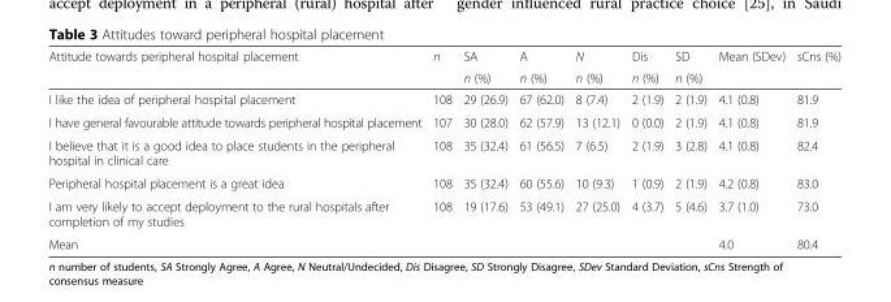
<table><thead><tr><td rowspan="2">Attitude towards peripheral hospital placement</td><td rowspan="2">n</td><td rowspan="2">SA n (%)</td><td rowspan="2">A n (%)</td><td rowspan="2">N n (%)</td><td rowspan="2">Dis n (%)</td><td rowspan="2">SD n (%)</td><td rowspan="2">Mean (SDev)</td><td rowspan="2">sCns (%)</td></tr><tr></tr></thead><tbody><tr><td>I like the idea of peripheral hospital placement</td><td>108</td><td>29 (26.9)</td><td>67 (62.0)</td><td>8 (7.4)</td><td>2 (1.9)</td><td>2 (1.9)</td><td>4.1 (0.8)</td><td>81.9</td></tr><tr><td>I have general favourable attitude towards peripheral hospital placement</td><td>107</td><td>30 (28.0)</td><td>62 (57.9)</td><td>13 (12.1)</td><td>0 (0.0)</td><td>2 (1.9)</td><td>4.1 (0.8)</td><td>81.9</td></tr><tr><td>I believe that it is a good idea to place students in the peripheral hospital in clinical care</td><td>108</td><td>35 (32.4)</td><td>61 (56.5)</td><td>7 (6.5)</td><td>2 (1.9)</td><td>3 (2.8)</td><td>4.1 (0.8)</td><td>82.4</td></tr><tr><td>Peripheral hospital placement is a great idea</td><td>108</td><td>35 (32.4)</td><td>60 (55.6)</td><td>10 (9.3)</td><td>1 (0.9)</td><td>2 (1.9)</td><td>4.2 (0.8)</td><td>83.0</td></tr><tr><td>I am very likely to accept deployment to the rural hospitals after completion of my studies</td><td>108</td><td>19 (17.6)</td><td>53 (49.1)</td><td>27 (25.0)</td><td>4 (3.7)</td><td>5 (4.6)</td><td>3.7 (1.0)</td><td>73.0</td></tr><tr><td colspan="7">Mean</td><td>4.0</td><td>80.4</td></tr></tbody></table>